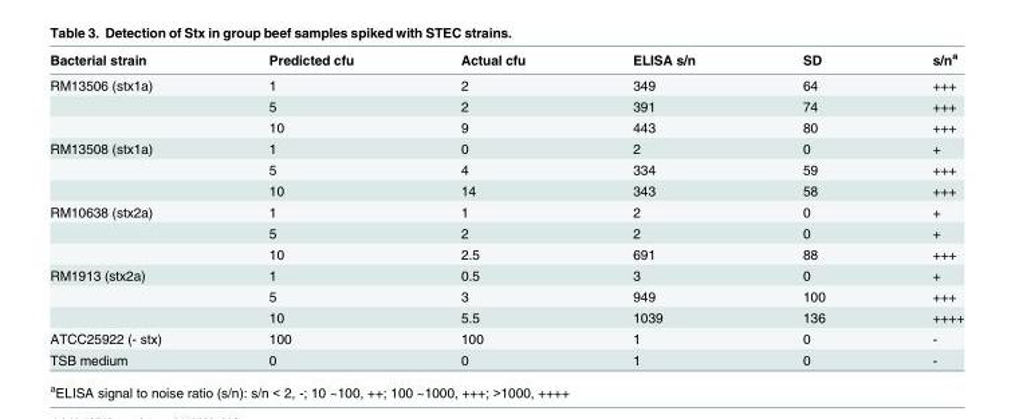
<table><thead><tr><td>Bacterial strain</td><td>Predicted cfu</td><td>Actual cfu</td><td>ELISA s/n</td><td>SD</td><td>s/n<sup>a</sup></td></tr></thead><tbody><tr><td rowspan="3">RM13506 (stx1a)</td><td>1</td><td>2</td><td>349</td><td>64</td><td>+++</td></tr><tr><td>5</td><td>2</td><td>391</td><td>74</td><td>+++</td></tr><tr><td>10</td><td>9</td><td>443</td><td>80</td><td>+++</td></tr><tr><td rowspan="3">RM13508 (stx1a)</td><td>1</td><td>0</td><td>2</td><td>0</td><td>+</td></tr><tr><td>5</td><td>4</td><td>334</td><td>59</td><td>+++</td></tr><tr><td>10</td><td>14</td><td>343</td><td>58</td><td>+++</td></tr><tr><td rowspan="3">RM10638 (stx2a)</td><td>1</td><td>1</td><td>2</td><td>0</td><td>+</td></tr><tr><td>5</td><td>2</td><td>2</td><td>0</td><td>+</td></tr><tr><td>10</td><td>2.5</td><td>691</td><td>88</td><td>+++</td></tr><tr><td rowspan="3">RM1913 (stx2a)</td><td>1</td><td>0.5</td><td>3</td><td>0</td><td>+</td></tr><tr><td>5</td><td>3</td><td>949</td><td>100</td><td>+++</td></tr><tr><td>10</td><td>5.5</td><td>1039</td><td>136</td><td>++++</td></tr><tr><td>ATCC25922 (- stx)</td><td>100</td><td>100</td><td>1</td><td>0</td><td>-</td></tr><tr><td>TSB medium</td><td>0</td><td>0</td><td>1</td><td>0</td><td>-</td></tr></tbody></table>